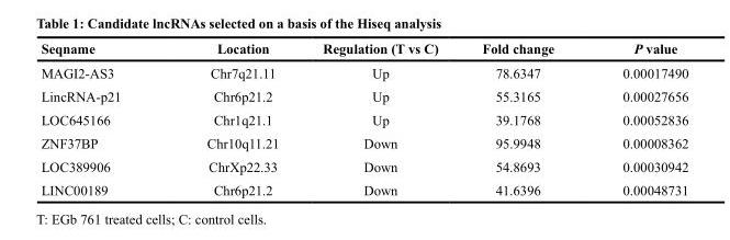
<table><thead><tr><td>Seqname</td><td>Location</td><td>Regulation (T vs C)</td><td>Fold change</td><td>P value</td></tr></thead><tbody><tr><td>MAGI2-AS3</td><td>Chr7q21.11</td><td>Up</td><td>78.6347</td><td>0.00017490</td></tr><tr><td>LincRNA-p21</td><td>Chr6p21.2</td><td>Up</td><td>55.3165</td><td>0.00027656</td></tr><tr><td>LOC645166</td><td>Chr1q21.1</td><td>Up</td><td>39.1768</td><td>0.00052836</td></tr><tr><td>ZNF37BP</td><td>Chr10q11.21</td><td>Down</td><td>95.9948</td><td>0.00008362</td></tr><tr><td>LOC389906</td><td>ChrXp22.33</td><td>Down</td><td>54.8693</td><td>0.00030942</td></tr><tr><td>LINC00189</td><td>Chr6p21.2</td><td>Down</td><td>41.6396</td><td>0.00048731</td></tr></tbody></table>